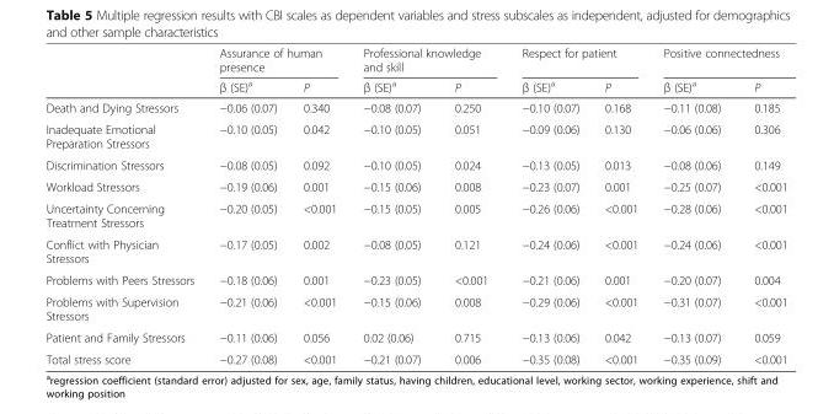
<table><thead><tr><td rowspan="2"></td><td colspan="2">Assurance of human presence</td><td colspan="2">Professional knowledge and skill</td><td colspan="2">Respect for patient</td><td colspan="2">Positive connectedness</td></tr><tr><td>β (SE)<sup>a</sup></td><td>P</td><td>β (SE)<sup>a</sup></td><td>P</td><td>β (SE)<sup>a</sup></td><td>P</td><td>β (SE)<sup>a</sup></td><td>P</td></tr></thead><tbody><tr><td>Death and Dying Stressors</td><td>−0.06 (0.07)</td><td>0.340</td><td>−0.08 (0.07)</td><td>0.250</td><td>−0.10 (0.07)</td><td>0.168</td><td>−0.11 (0.08)</td><td>0.185</td></tr><tr><td>Inadequate Emotional Preparation Stressors</td><td>−0.10 (0.05)</td><td>0.042</td><td>−0.10 (0.05)</td><td>0.051</td><td>−0.09 (0.06)</td><td>0.130</td><td>−0.06 (0.06)</td><td>0.306</td></tr><tr><td>Discrimination Stressors</td><td>−0.08 (0.05)</td><td>0.092</td><td>−0.10 (0.05)</td><td>0.024</td><td>−0.13 (0.05)</td><td>0.013</td><td>−0.08 (0.06)</td><td>0.149</td></tr><tr><td>Workload Stressors</td><td>−0.19 (0.06)</td><td>0.001</td><td>−0.15 (0.06)</td><td>0.008</td><td>−0.23 (0.07)</td><td>0.001</td><td>−0.25 (0.07)</td><td>&lt;0.001</td></tr><tr><td>Uncertainty Concerning Treatment Stressors</td><td>−0.20 (0.05)</td><td>&lt;0.001</td><td>−0.15 (0.05)</td><td>0.005</td><td>−0.26 (0.06)</td><td>&lt;0.001</td><td>−0.28 (0.06)</td><td>&lt;0.001</td></tr><tr><td>Conflict with Physician Stressors</td><td>−0.17 (0.05)</td><td>0.002</td><td>−0.08 (0.05)</td><td>0.121</td><td>−0.24 (0.06)</td><td>&lt;0.001</td><td>−0.24 (0.06)</td><td>&lt;0.001</td></tr><tr><td>Problems with Peers Stressors</td><td>−0.18 (0.06)</td><td>0.001</td><td>−0.23 (0.05)</td><td>&lt;0.001</td><td>−0.21 (0.06)</td><td>0.001</td><td>−0.20 (0.07)</td><td>0.004</td></tr><tr><td>Problems with Supervision Stressors</td><td>−0.21 (0.06)</td><td>&lt;0.001</td><td>−0.15 (0.06)</td><td>0.008</td><td>−0.29 (0.06)</td><td>&lt;0.001</td><td>−0.31 (0.07)</td><td>&lt;0.001</td></tr><tr><td>Patient and Family Stressors</td><td>−0.11 (0.06)</td><td>0.056</td><td>0.02 (0.06)</td><td>0.715</td><td>−0.13 (0.06)</td><td>0.042</td><td>−0.13 (0.07)</td><td>0.059</td></tr><tr><td>Total stress score</td><td>−0.27 (0.08)</td><td>&lt;0.001</td><td>−0.21 (0.07)</td><td>0.006</td><td>−0.35 (0.08)</td><td>&lt;0.001</td><td>−0.35 (0.09)</td><td>&lt;0.001</td></tr></tbody></table>